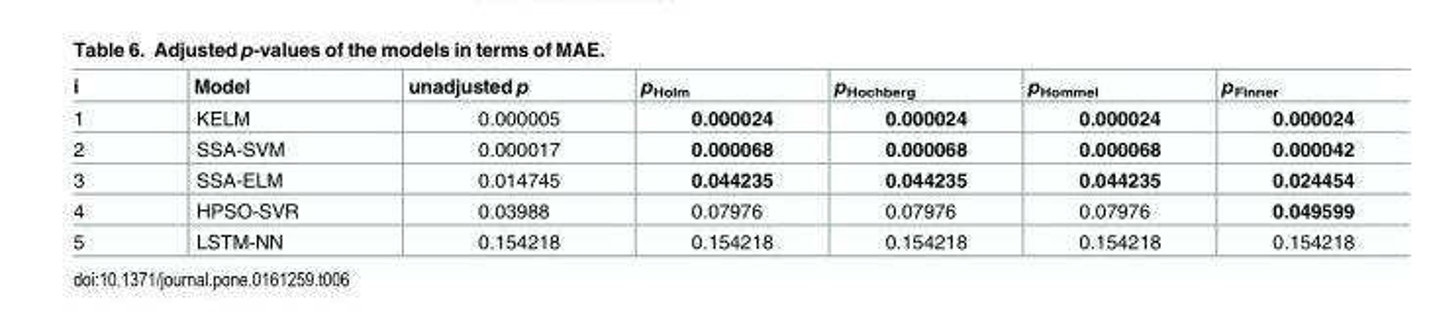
<table><thead><tr><td>i</td><td>Model</td><td>unadjusted p</td><td>p<sub>Holm</sub></td><td>p<sub>Hochberg</sub></td><td>p<sub>Hommel</sub></td><td>p<sub>Finner</sub></td></tr></thead><tbody><tr><td>1</td><td>KELM</td><td>0.000005</td><td>0.000024</td><td>0.000024</td><td>0.000024</td><td>0.000024</td></tr><tr><td>2</td><td>SSA-SVM</td><td>0.000017</td><td>0.000068</td><td>0.000068</td><td>0.000068</td><td>0.000042</td></tr><tr><td>3</td><td>SSA-ELM</td><td>0.014745</td><td>0.044235</td><td>0.044235</td><td>0.044235</td><td>0.024454</td></tr><tr><td>4</td><td>HPSO-SVR</td><td>0.03988</td><td>0.07976</td><td>0.07976</td><td>0.07976</td><td>0.049599</td></tr><tr><td>5</td><td>LSTM-NN</td><td>0.154218</td><td>0.154218</td><td>0.154218</td><td>0.154218</td><td>0.154218</td></tr></tbody></table>